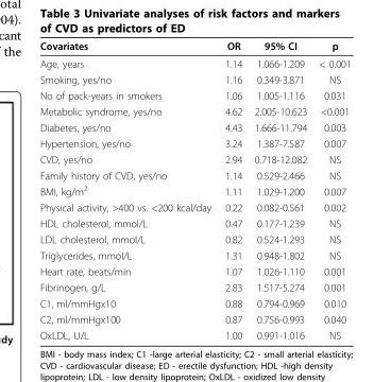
<table><thead><tr><td>Covariates</td><td>OR</td><td>95% CI</td><td>p</td></tr></thead><tbody><tr><td>Age, years</td><td>1.14</td><td>1.066-1.209</td><td>&lt; 0.001</td></tr><tr><td>Smoking, yes/no</td><td>1.16</td><td>0.349-3.871</td><td>NS</td></tr><tr><td>No of pack-years in smokers</td><td>1.06</td><td>1.005-1.116</td><td>0.031</td></tr><tr><td>Metabolic syndrome, yes/no</td><td>4.62</td><td>2.005-10.623</td><td>&lt;0.001</td></tr><tr><td>Diabetes, yes/no</td><td>4.43</td><td>1.666-11.794</td><td>0.003</td></tr><tr><td>Hypertension, yes/no</td><td>3.24</td><td>1.387-7.587</td><td>0.007</td></tr><tr><td>CVD, yes/no</td><td>2.94</td><td>0.718-12.082</td><td>NS</td></tr><tr><td>Family history of CVD, yes/no</td><td>1.14</td><td>0.529-2.466</td><td>NS</td></tr><tr><td>BMI, kg/m<sup>2</sup></td><td>1.11</td><td>1.029-1.200</td><td>0.007</td></tr><tr><td>Physical activity, &gt;400 vs. &lt;200 kcal/day</td><td>0.22</td><td>0.082-0.561</td><td>0.002</td></tr><tr><td>HDL cholesterol, mmol/L</td><td>0.47</td><td>0.177-1.239</td><td>NS</td></tr><tr><td>LDL cholesterol, mmol/L</td><td>0.82</td><td>0.524-1.293</td><td>NS</td></tr><tr><td>Triglycerides, mmol/L</td><td>1.31</td><td>0.948-1.802</td><td>NS</td></tr><tr><td>Heart rate, beats/min</td><td>1.07</td><td>1.026-1.110</td><td>0.001</td></tr><tr><td>Fibrinogen, g/L</td><td>2.83</td><td>1.517-5.274</td><td>0.001</td></tr><tr><td>C1, ml/mmHgx10</td><td>0.88</td><td>0.794-0.969</td><td>0.010</td></tr><tr><td>C2, ml/mmHgx100</td><td>0.87</td><td>0.756-0.993</td><td>0.040</td></tr><tr><td>OxLDL, U/L</td><td>1.00</td><td>0.991-1.016</td><td>NS</td></tr></tbody></table>